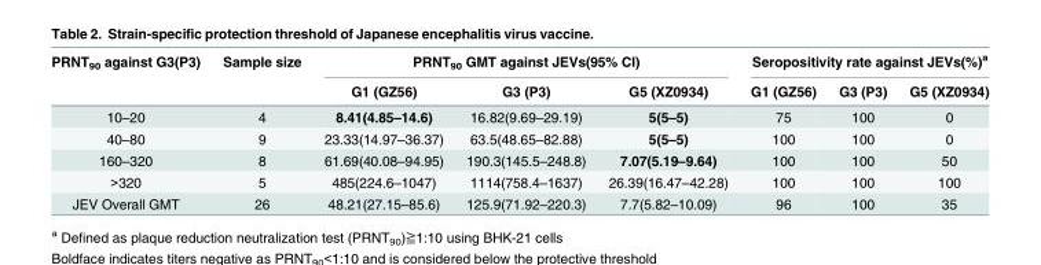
<table><thead><tr><td rowspan="2">PRNT<sub>90</sub> against G3(P3)</td><td rowspan="2">Sample size</td><td colspan="3">PRNT<sub>90</sub> GMT against JEVs(95% CI)</td><td colspan="3">Seropositivity rate against JEVs(%)<sup>a</sup></td></tr><tr><td>G1 (GZ56)</td><td>G3 (P3)</td><td>G5 (XZ0934)</td><td>G1 (GZ56)</td><td>G3 (P3)</td><td>G5 (XZ0934)</td></tr></thead><tbody><tr><td>10–20</td><td>4</td><td>8.41(4.85–14.6)</td><td>16.82(9.69–29.19)</td><td>5(5–5)</td><td>75</td><td>100</td><td>0</td></tr><tr><td>40–80</td><td>9</td><td>23.33(14.97–36.37)</td><td>63.5(48.65–82.88)</td><td>5(5–5)</td><td>100</td><td>100</td><td>0</td></tr><tr><td>160–320</td><td>8</td><td>61.69(40.08–94.95)</td><td>190.3(145.5–248.8)</td><td>7.07(5.19–9.64)</td><td>100</td><td>100</td><td>50</td></tr><tr><td>&gt;320</td><td>5</td><td>485(224.6–1047)</td><td>1114(758.4–1637)</td><td>26.39(16.47–42.28)</td><td>100</td><td>100</td><td>100</td></tr><tr><td>JEV Overall GMT</td><td>26</td><td>48.21(27.15–85.6)</td><td>125.9(71.92–220.3)</td><td>7.7(5.82–10.09)</td><td>96</td><td>100</td><td>35</td></tr></tbody></table>